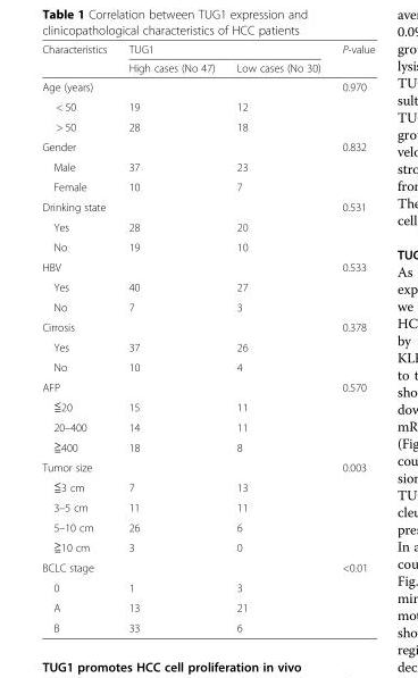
<table><thead><tr><td rowspan="2">Characteristics</td><td colspan="2">TUG1</td><td rowspan="2">P-value</td></tr><tr><td>High cases (No 47)</td><td>Low cases (No 30)</td></tr></thead><tbody><tr><td>Age (years)</td><td></td><td></td><td>0.970</td></tr><tr><td>&lt; 50</td><td>19</td><td>12</td><td></td></tr><tr><td>&gt; 50</td><td>28</td><td>18</td><td></td></tr><tr><td>Gender</td><td></td><td></td><td>0.832</td></tr><tr><td>Male</td><td>37</td><td>23</td><td></td></tr><tr><td>Female</td><td>10</td><td>7</td><td></td></tr><tr><td>Drinking state</td><td></td><td></td><td>0.531</td></tr><tr><td>Yes</td><td>28</td><td>20</td><td></td></tr><tr><td>No</td><td>19</td><td>10</td><td></td></tr><tr><td>HBV</td><td></td><td></td><td>0.533</td></tr><tr><td>Yes</td><td>40</td><td>27</td><td></td></tr><tr><td>No</td><td>7</td><td>3</td><td></td></tr><tr><td>Cirrosis</td><td></td><td></td><td>0.378</td></tr><tr><td>Yes</td><td>37</td><td>26</td><td></td></tr><tr><td>No</td><td>10</td><td>4</td><td></td></tr><tr><td>AFP</td><td></td><td></td><td>0.570</td></tr><tr><td>≦20</td><td>15</td><td>11</td><td></td></tr><tr><td>20–400</td><td>14</td><td>11</td><td></td></tr><tr><td>≧400</td><td>18</td><td>8</td><td></td></tr><tr><td>Tumor size</td><td></td><td></td><td>0.003</td></tr><tr><td>≦3 cm</td><td>7</td><td>13</td><td></td></tr><tr><td>3–5 cm</td><td>11</td><td>11</td><td></td></tr><tr><td>5–10 cm</td><td>26</td><td>6</td><td></td></tr><tr><td>≧10 cm</td><td>3</td><td>0</td><td></td></tr><tr><td>BCLC stage</td><td></td><td></td><td>&lt;0.01</td></tr><tr><td>0</td><td>1</td><td>3</td><td></td></tr><tr><td>A</td><td>13</td><td>21</td><td></td></tr><tr><td>B</td><td>33</td><td>6</td><td></td></tr></tbody></table>